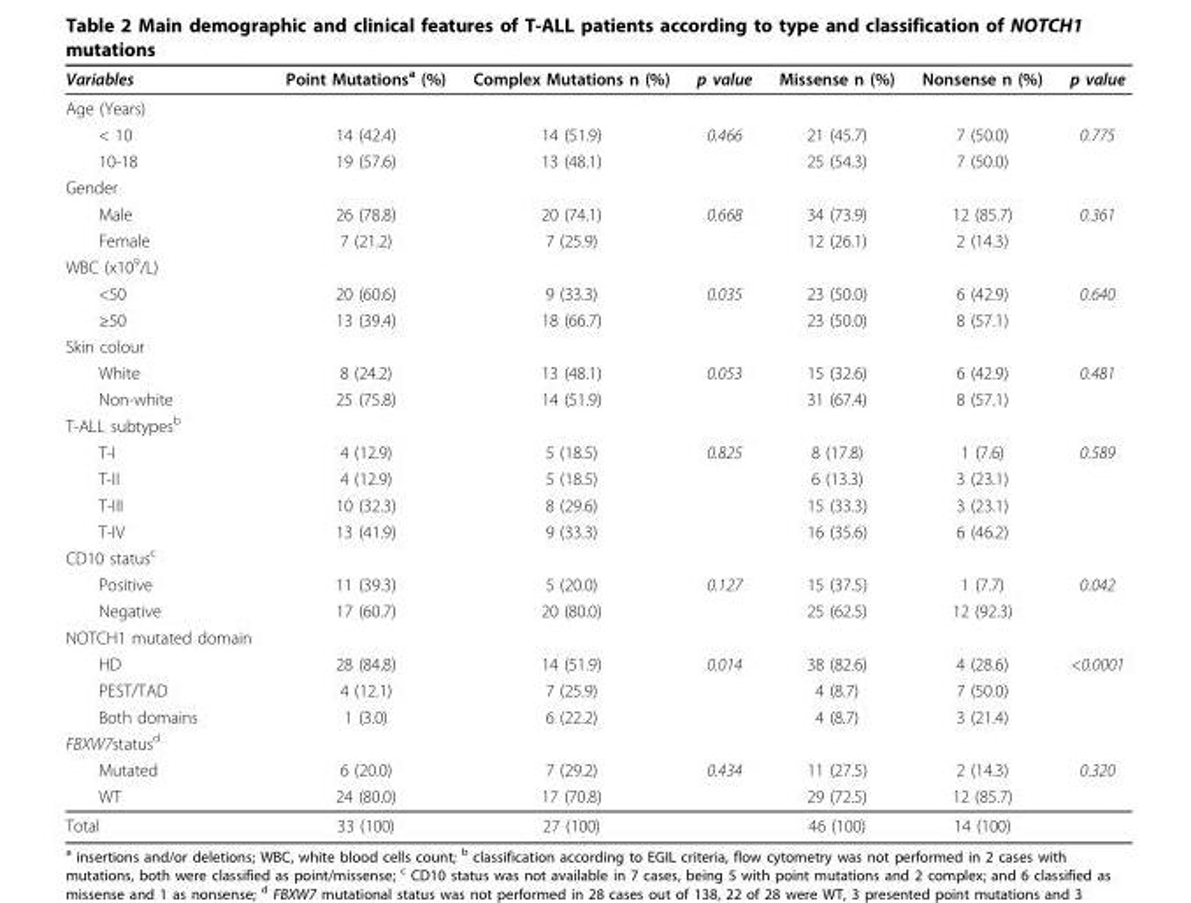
<table><thead><tr><td>Variables</td><td>Point Mutations<sup>a</sup> (%)</td><td>Complex Mutations n (%)</td><td>p value</td><td>Missense n (%)</td><td>Nonsense n (%)</td><td>p value</td></tr></thead><tbody><tr><td colspan="7">Age (Years)</td></tr><tr><td>&lt; 10</td><td>14 (42.4)</td><td>14 (51.9)</td><td>0.466</td><td>21 (45.7)</td><td>7 (50.0)</td><td>0.775</td></tr><tr><td>10-18</td><td>19 (57.6)</td><td>13 (48.1)</td><td></td><td>25 (54.3)</td><td>7 (50.0)</td><td></td></tr><tr><td colspan="7">Gender</td></tr><tr><td>Male</td><td>26 (78.8)</td><td>20 (74.1)</td><td>0.668</td><td>34 (73.9)</td><td>12 (85.7)</td><td>0.361</td></tr><tr><td>Female</td><td>7 (21.2)</td><td>7 (25.9)</td><td></td><td>12 (26.1)</td><td>2 (14.3)</td><td></td></tr><tr><td colspan="7">WBC (x10<sup>9</sup>/L)</td></tr><tr><td>&lt;50</td><td>20 (60.6)</td><td>9 (33.3)</td><td>0.035</td><td>23 (50.0)</td><td>6 (42.9)</td><td>0.640</td></tr><tr><td>≥50</td><td>13 (39.4)</td><td>18 (66.7)</td><td></td><td>23 (50.0)</td><td>8 (57.1)</td><td></td></tr><tr><td colspan="7">Skin colour</td></tr><tr><td>White</td><td>8 (24.2)</td><td>13 (48.1)</td><td>0.053</td><td>15 (32.6)</td><td>6 (42.9)</td><td>0.481</td></tr><tr><td>Non-white</td><td>25 (75.8)</td><td>14 (51.9)</td><td></td><td>31 (67.4)</td><td>8 (57.1)</td><td></td></tr><tr><td colspan="7">T-ALL subtypes<sup>b</sup></td></tr><tr><td>T-I</td><td>4 (12.9)</td><td>5 (18.5)</td><td>0.825</td><td>8 (17.8)</td><td>1 (7.6)</td><td>0.589</td></tr><tr><td>T-II</td><td>4 (12.9)</td><td>5 (18.5)</td><td></td><td>6 (13.3)</td><td>3 (23.1)</td><td></td></tr><tr><td>T-III</td><td>10 (32.3)</td><td>8 (29.6)</td><td></td><td>15 (33.3)</td><td>3 (23.1)</td><td></td></tr><tr><td>T-IV</td><td>13 (41.9)</td><td>9 (33.3)</td><td></td><td>16 (35.6)</td><td>6 (46.2)</td><td></td></tr><tr><td colspan="7">CD10 status<sup>c</sup></td></tr><tr><td>Positive</td><td>11 (39.3)</td><td>5 (20.0)</td><td>0.127</td><td>15 (37.5)</td><td>1 (7.7)</td><td>0.042</td></tr><tr><td>Negative</td><td>17 (60.7)</td><td>20 (80.0)</td><td></td><td>25 (62.5)</td><td>12 (92.3)</td><td></td></tr><tr><td colspan="7">NOTCH1 mutated domain</td></tr><tr><td>HD</td><td>28 (84.8)</td><td>14 (51.9)</td><td>0.014</td><td>38 (82.6)</td><td>4 (28.6)</td><td>&lt;0.0001</td></tr><tr><td>PEST/TAD</td><td>4 (12.1)</td><td>7 (25.9)</td><td></td><td>4 (8.7)</td><td>7 (50.0)</td><td></td></tr><tr><td>Both domains</td><td>1 (3.0)</td><td>6 (22.2)</td><td></td><td>4 (8.7)</td><td>3 (21.4)</td><td></td></tr><tr><td colspan="7">FBXW7status<sup>d</sup></td></tr><tr><td>Mutated</td><td>6 (20.0)</td><td>7 (29.2)</td><td>0.434</td><td>11 (27.5)</td><td>2 (14.3)</td><td>0.320</td></tr><tr><td>WT</td><td>24 (80.0)</td><td>17 (70.8)</td><td></td><td>29 (72.5)</td><td>12 (85.7)</td><td></td></tr><tr><td>Total</td><td>33 (100)</td><td>27 (100)</td><td></td><td>46 (100)</td><td>14 (100)</td><td></td></tr></tbody></table>